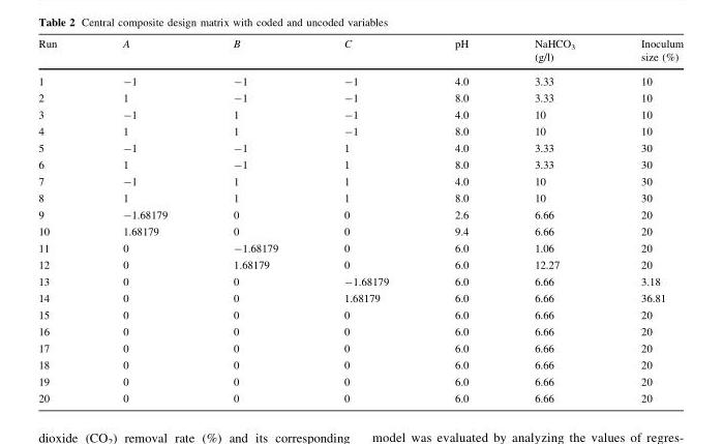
<table><thead><tr><td>Run</td><td>A</td><td>B</td><td>C</td><td>pH</td><td>NaHCO<sub>3</sub> (g/l)</td><td>Inoculum size (%)</td></tr></thead><tbody><tr><td>1</td><td>-1</td><td>-1</td><td>-1</td><td>4.0</td><td>3.33</td><td>10</td></tr><tr><td>2</td><td>1</td><td>-1</td><td>-1</td><td>8.0</td><td>3.33</td><td>10</td></tr><tr><td>3</td><td>-1</td><td>1</td><td>-1</td><td>4.0</td><td>10</td><td>10</td></tr><tr><td>4</td><td>1</td><td>1</td><td>-1</td><td>8.0</td><td>10</td><td>10</td></tr><tr><td>5</td><td>-1</td><td>-1</td><td>1</td><td>4.0</td><td>3.33</td><td>30</td></tr><tr><td>6</td><td>1</td><td>-1</td><td>1</td><td>8.0</td><td>3.33</td><td>30</td></tr><tr><td>7</td><td>-1</td><td>1</td><td>1</td><td>4.0</td><td>10</td><td>30</td></tr><tr><td>8</td><td>1</td><td>1</td><td>1</td><td>8.0</td><td>10</td><td>30</td></tr><tr><td>9</td><td>-1.68179</td><td>0</td><td>0</td><td>2.6</td><td>6.66</td><td>20</td></tr><tr><td>10</td><td>1.68179</td><td>0</td><td>0</td><td>9.4</td><td>6.66</td><td>20</td></tr><tr><td>11</td><td>0</td><td>-1.68179</td><td>0</td><td>6.0</td><td>1.06</td><td>20</td></tr><tr><td>12</td><td>0</td><td>1.68179</td><td>0</td><td>6.0</td><td>12.27</td><td>20</td></tr><tr><td>13</td><td>0</td><td>0</td><td>-1.68179</td><td>6.0</td><td>6.66</td><td>3.18</td></tr><tr><td>14</td><td>0</td><td>0</td><td>1.68179</td><td>6.0</td><td>6.66</td><td>36.81</td></tr><tr><td>15</td><td>0</td><td>0</td><td>0</td><td>6.0</td><td>6.66</td><td>20</td></tr><tr><td>16</td><td>0</td><td>0</td><td>0</td><td>6.0</td><td>6.66</td><td>20</td></tr><tr><td>17</td><td>0</td><td>0</td><td>0</td><td>6.0</td><td>6.66</td><td>20</td></tr><tr><td>18</td><td>0</td><td>0</td><td>0</td><td>6.0</td><td>6.66</td><td>20</td></tr><tr><td>19</td><td>0</td><td>0</td><td>0</td><td>6.0</td><td>6.66</td><td>20</td></tr><tr><td>20</td><td>0</td><td>0</td><td>0</td><td>6.0</td><td>6.66</td><td>20</td></tr></tbody></table>